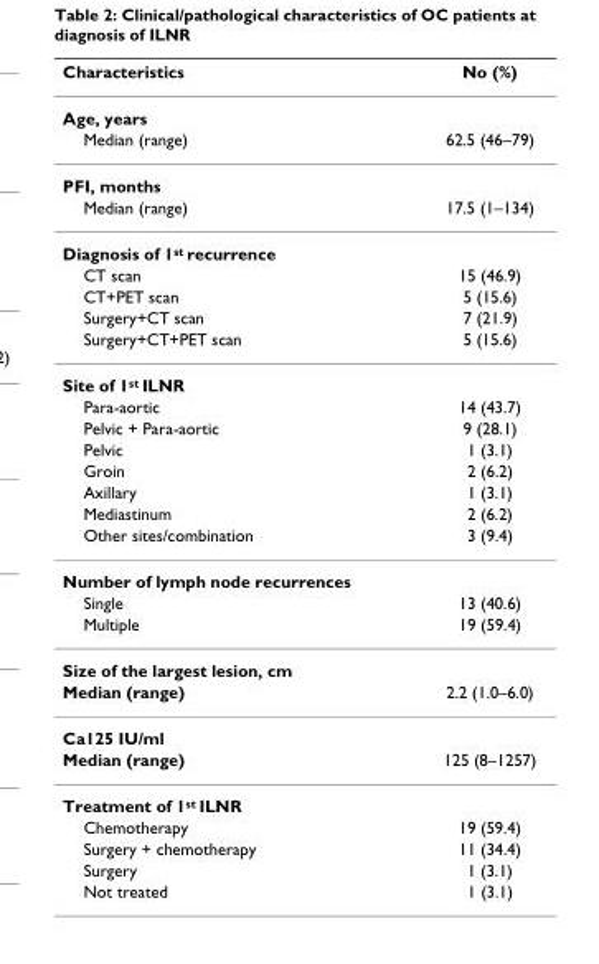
<table><thead><tr><td>Characteristics</td><td>No (%)</td></tr></thead><tbody><tr><td colspan="2">Age, years</td></tr><tr><td>Median (range)</td><td>62.5 (46–79)</td></tr><tr><td colspan="2">PFI, months</td></tr><tr><td>Median (range)</td><td>17.5 (1–134)</td></tr><tr><td colspan="2">Diagnosis of 1st recurrence</td></tr><tr><td>CT scan</td><td>15 (46.9)</td></tr><tr><td>CT+PET scan</td><td>5 (15.6)</td></tr><tr><td>Surgery+CT scan</td><td>7 (21.9)</td></tr><tr><td>Surgery+CT+PET scan</td><td>5 (15.6)</td></tr><tr><td colspan="2">Site of 1st ILNR</td></tr><tr><td>Para-aortic</td><td>14 (43.7)</td></tr><tr><td>Pelvic + Para-aortic</td><td>9 (28.1)</td></tr><tr><td>Pelvic</td><td>1 (3.1)</td></tr><tr><td>Groin</td><td>2 (6.2)</td></tr><tr><td>Axillary</td><td>1 (3.1)</td></tr><tr><td>Mediastinum</td><td>2 (6.2)</td></tr><tr><td>Other sites/combination</td><td>3 (9.4)</td></tr><tr><td colspan="2">Number of lymph node recurrences</td></tr><tr><td>Single</td><td>13 (40.6)</td></tr><tr><td>Multiple</td><td>19 (59.4)</td></tr><tr><td colspan="2">Size of the largest lesion, cm</td></tr><tr><td>Median (range)</td><td>2.2 (1.0–6.0)</td></tr><tr><td colspan="2">Ca125 IU/ml</td></tr><tr><td>Median (range)</td><td>125 (8–1257)</td></tr><tr><td colspan="2">Treatment of 1st ILNR</td></tr><tr><td>Chemotherapy</td><td>19 (59.4)</td></tr><tr><td>Surgery + chemotherapy</td><td>11 (34.4)</td></tr><tr><td>Surgery</td><td>1 (3.1)</td></tr><tr><td>Not treated</td><td>1 (3.1)</td></tr></tbody></table>